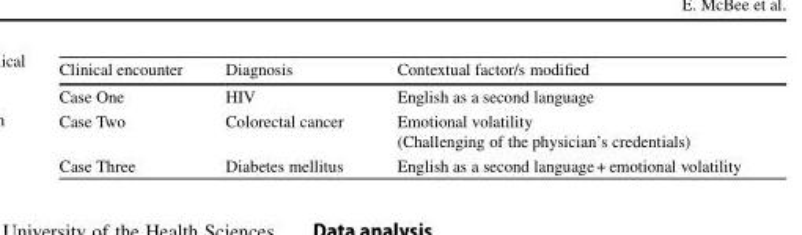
<table><thead><tr><td>Clinical encounter</td><td>Diagnosis</td><td>Contextual factor/s modified</td></tr></thead><tbody><tr><td>Case One</td><td>HIV</td><td>English as a second language</td></tr><tr><td>Case Two</td><td>Colorectal cancer</td><td>Emotional volatility (Challenging of the physician’s credentials)</td></tr><tr><td>Case Three</td><td>Diabetes mellitus</td><td>English as a second language+ emotional volatility</td></tr></tbody></table>